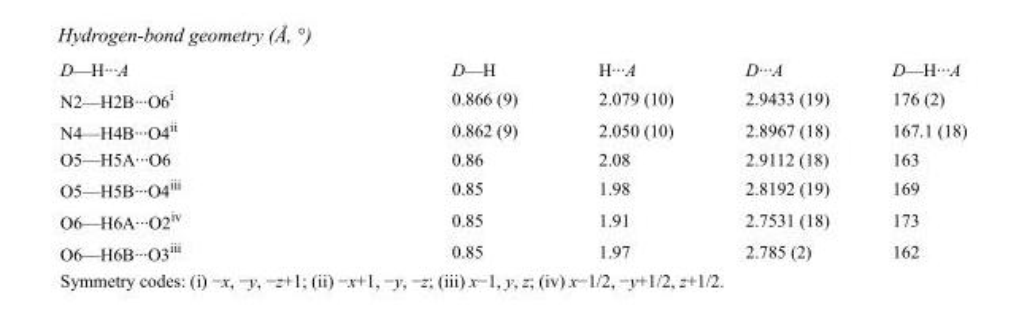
<table><tbody><tr><td>D—H···A</td><td>D—H</td><td>H···A</td><td>D···A</td><td>D—H···A</td></tr><tr><td>N2—H2B···O6<sup>i</sup></td><td>0.866 (9)</td><td>2.079 (10)</td><td>2.9433 (19)</td><td>176 (2)</td></tr><tr><td>N4—H4B···O4<sup>ii</sup></td><td>0.862 (9)</td><td>2.050 (10)</td><td>2.8967 (18)</td><td>167.1 (18)</td></tr><tr><td>O5—H5A···O6</td><td>0.86</td><td>2.08</td><td>2.9112 (18)</td><td>163</td></tr><tr><td>O5—H5B···O4<sup>iii</sup></td><td>0.85</td><td>1.98</td><td>2.8192 (19)</td><td>169</td></tr><tr><td>O6—H6A···O2<sup>iv</sup></td><td>0.85</td><td>1.91</td><td>2.7531 (18)</td><td>173</td></tr><tr><td>O6—H6B···O3<sup>iii</sup></td><td>0.85</td><td>1.97</td><td>2.785 (2)</td><td>162</td></tr></tbody></table>